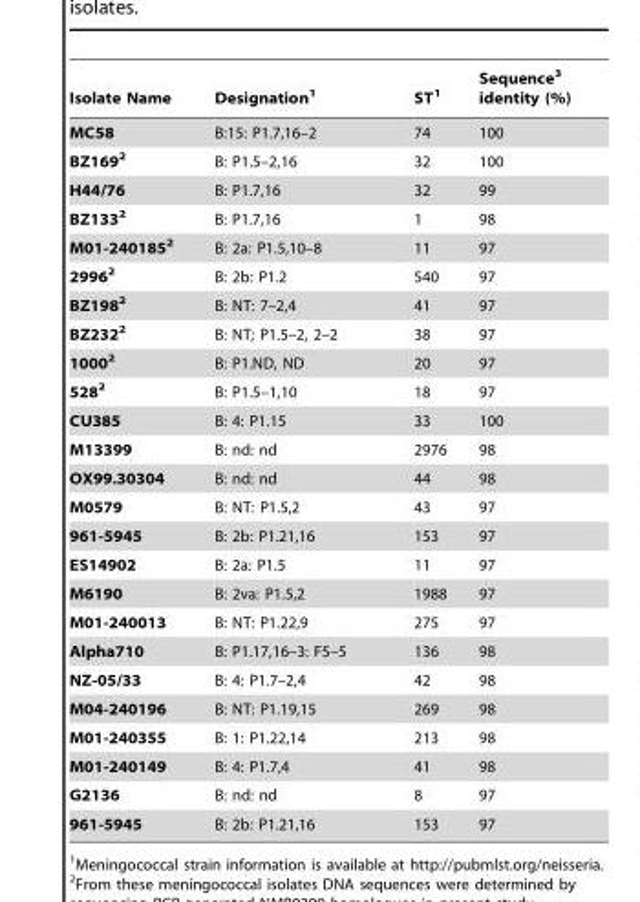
<table><thead><tr><td>Isolate Name</td><td>Designation<sup>1</sup></td><td>ST<sup>1</sup></td><td>Sequence<sup>3</sup> identity (%)</td></tr></thead><tbody><tr><td>MC58</td><td>B:15: P1.7,16–2</td><td>74</td><td>100</td></tr><tr><td>BZ1692</td><td>B: P1.5–2,16</td><td>32</td><td>100</td></tr><tr><td>H44/76</td><td>B: P1.7,16</td><td>32</td><td>99</td></tr><tr><td>BZ1332</td><td>B: P1.7,16</td><td>1</td><td>98</td></tr><tr><td>M01-2401852</td><td>B: 2a: P1.5,10–8</td><td>11</td><td>97</td></tr><tr><td>29962</td><td>B: 2b: P1.2</td><td>540</td><td>97</td></tr><tr><td>BZ1982</td><td>B: NT: 7–2,4</td><td>41</td><td>97</td></tr><tr><td>BZ2322</td><td>B: NT; P1.5–2, 2–2</td><td>38</td><td>97</td></tr><tr><td>10002</td><td>B: P1.ND, ND</td><td>20</td><td>97</td></tr><tr><td>5282</td><td>B: P1.5–1,10</td><td>18</td><td>97</td></tr><tr><td>CU385</td><td>B: 4: P1.15</td><td>33</td><td>100</td></tr><tr><td>M13399</td><td>B: nd: nd</td><td>2976</td><td>98</td></tr><tr><td>OX99.30304</td><td>B: nd: nd</td><td>44</td><td>98</td></tr><tr><td>M0579</td><td>B: NT: P1.5,2</td><td>43</td><td>97</td></tr><tr><td>961-5945</td><td>B: 2b: P1.21,16</td><td>153</td><td>97</td></tr><tr><td>ES14902</td><td>B: 2a: P1.5</td><td>11</td><td>97</td></tr><tr><td>M6190</td><td>B: 2va: P1.5,2</td><td>1988</td><td>97</td></tr><tr><td>M01-240013</td><td>B: NT: P1.22,9</td><td>275</td><td>97</td></tr><tr><td>Alpha710</td><td>B: P1.17,16–3: F5–5</td><td>136</td><td>98</td></tr><tr><td>NZ-05/33</td><td>B: 4: P1.7–2,4</td><td>42</td><td>98</td></tr><tr><td>M04-240196</td><td>B: NT: P1.19,15</td><td>269</td><td>98</td></tr><tr><td>M01-240355</td><td>B: 1: P1.22,14</td><td>213</td><td>98</td></tr><tr><td>M01-240149</td><td>B: 4: P1.7,4</td><td>41</td><td>98</td></tr><tr><td>G2136</td><td>B: nd: nd</td><td>8</td><td>97</td></tr><tr><td>961-5945</td><td>B: 2b: P1.21,16</td><td>153</td><td>97</td></tr></tbody></table>